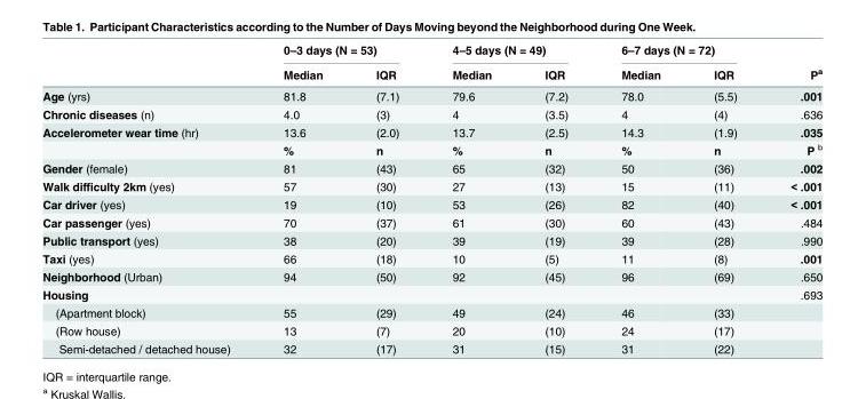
<table><thead><tr><td rowspan="2"></td><td colspan="2">0–3 days (N = 53)</td><td colspan="2">4–5 days (N = 49)</td><td colspan="2">6–7 days (N = 72)</td><td rowspan="2">P<sup>a</sup></td></tr><tr><td>Median</td><td>IQR</td><td>Median</td><td>IQR</td><td>Median</td><td>IQR</td></tr></thead><tbody><tr><td>Age (yrs)</td><td>81.8</td><td>(7.1)</td><td>79.6</td><td>(7.2)</td><td>78.0</td><td>(5.5)</td><td>.001</td></tr><tr><td>Chronic diseases (n)</td><td>4.0</td><td>(3)</td><td>4</td><td>(3.5)</td><td>4</td><td>(4)</td><td>.636</td></tr><tr><td rowspan="2">Accelerometer wear time (hr)</td><td>13.6</td><td>(2.0)</td><td>13.7</td><td>(2.5)</td><td>14.3</td><td>(1.9)</td><td>.035</td></tr><tr><td>%</td><td>n</td><td>%</td><td>n</td><td>%</td><td>n</td><td>P <sup>b</sup></td></tr><tr><td>Gender (female)</td><td>81</td><td>(43)</td><td>65</td><td>(32)</td><td>50</td><td>(36)</td><td>.002</td></tr><tr><td>Walk difficulty 2km (yes)</td><td>57</td><td>(30)</td><td>27</td><td>(13)</td><td>15</td><td>(11)</td><td>&lt; .001</td></tr><tr><td>Car driver (yes)</td><td>19</td><td>(10)</td><td>53</td><td>(26)</td><td>82</td><td>(40)</td><td>&lt; .001</td></tr><tr><td>Car passenger (yes)</td><td>70</td><td>(37)</td><td>61</td><td>(30)</td><td>60</td><td>(43)</td><td>.484</td></tr><tr><td>Public transport (yes)</td><td>38</td><td>(20)</td><td>39</td><td>(19)</td><td>39</td><td>(28)</td><td>.990</td></tr><tr><td>Taxi (yes)</td><td>66</td><td>(18)</td><td>10</td><td>(5)</td><td>11</td><td>(8)</td><td>.001</td></tr><tr><td>Neighborhood (Urban)</td><td>94</td><td>(50)</td><td>92</td><td>(45)</td><td>96</td><td>(69)</td><td>.650</td></tr><tr><td>Housing</td><td></td><td></td><td></td><td></td><td></td><td></td><td>.693</td></tr><tr><td>(Apartment block)</td><td>55</td><td>(29)</td><td>49</td><td>(24)</td><td>46</td><td>(33)</td><td></td></tr><tr><td>(Row house)</td><td>13</td><td>(7)</td><td>20</td><td>(10)</td><td>24</td><td>(17)</td><td></td></tr><tr><td>Semi-detached / detached house)</td><td>32</td><td>(17)</td><td>31</td><td>(15)</td><td>31</td><td>(22)</td><td></td></tr></tbody></table>